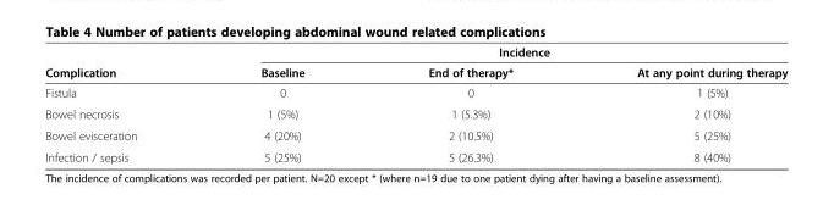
<table><thead><tr><td rowspan="2">Complication</td><td colspan="3">Incidence</td></tr><tr><td>Baseline</td><td>End of therapy*</td><td>At any point during therapy</td></tr></thead><tbody><tr><td>Fistula</td><td>0</td><td>0</td><td>1 (5%)</td></tr><tr><td>Bowel necrosis</td><td>1 (5%)</td><td>1 (5.3%)</td><td>2 (10%)</td></tr><tr><td>Bowel evisceration</td><td>4 (20%)</td><td>2 (10.5%)</td><td>5 (25%)</td></tr><tr><td>Infection / sepsis</td><td>5 (25%)</td><td>5 (26.3%)</td><td>8 (40%)</td></tr></tbody></table>